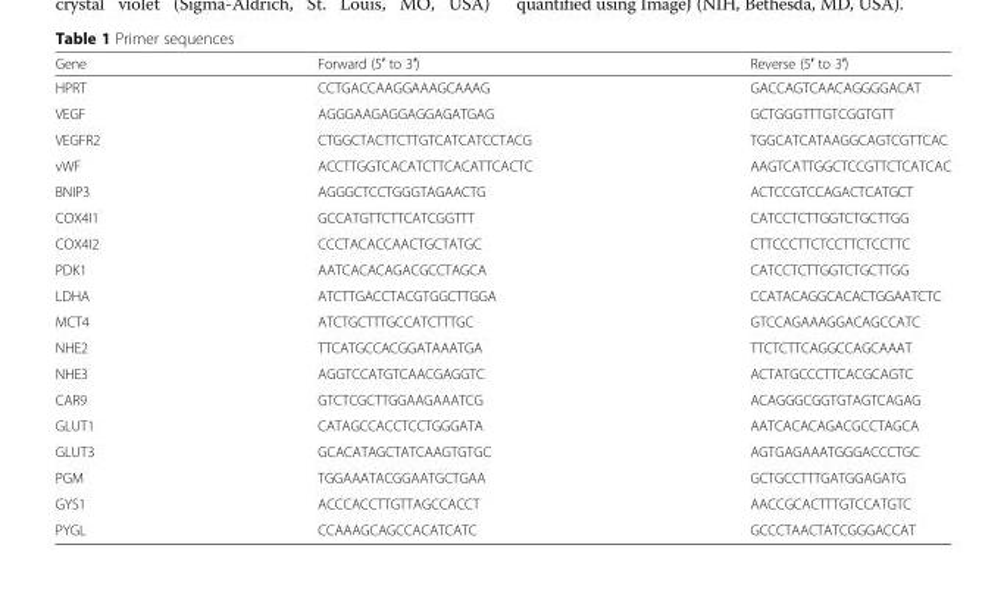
<table><thead><tr><td>Gene</td><td>Forward (5′ to 3′)</td><td>Reverse (5′ to 3′)</td></tr></thead><tbody><tr><td>HPRT</td><td>CCTGACCAAGGAAAGCAAAG</td><td>GACCAGTCAACAGGGGACAT</td></tr><tr><td>VEGF</td><td>AGGGAAGAGGAGGAGATGAG</td><td>GCTGGGTTTGTCGGTGTT</td></tr><tr><td>VEGFR2</td><td>CTGGCTACTTCTTGTCATCATCCTACG</td><td>TGGCATCATAAGGCAGTCGTTCAC</td></tr><tr><td>vWF</td><td>ACCTTGGTCACATCTTCACATTCACTC</td><td>AAGTCATTGGCTCCGTTCTCATCAC</td></tr><tr><td>BNIP3</td><td>AGGGCTCCTGGGTAGAACTG</td><td>ACTCCGTCCAGACTCATGCT</td></tr><tr><td>COX4I1</td><td>GCCATGTTCTTCATCGGTTT</td><td>CATCCTCTTGGTCTGCTTGG</td></tr><tr><td>COX4I2</td><td>CCCTACACCAACTGCTATGC</td><td>CTTCCCTTCTCCTTCTCCTTC</td></tr><tr><td>PDK1</td><td>AATCACACAGACGCCTAGCA</td><td>CATCCTCTTGGTCTGCTTGG</td></tr><tr><td>LDHA</td><td>ATCTTGACCTACGTGGCTTGGA</td><td>CCATACAGGCACACTGGAATCTC</td></tr><tr><td>MCT4</td><td>ATCTGCTTTGCCATCTTTGC</td><td>GTCCAGAAAGGACAGCCATC</td></tr><tr><td>NHE2</td><td>TTCATGCCACGGATAAATGA</td><td>TTCTCTTCAGGCCAGCAAAT</td></tr><tr><td>NHE3</td><td>AGGTCCATGTCAACGAGGTC</td><td>ACTATGCCCTTCACGCAGTC</td></tr><tr><td>CAR9</td><td>GTCTCGCTTGGAAGAAATCG</td><td>ACAGGGCGGTGTAGTCAGAG</td></tr><tr><td>GLUT1</td><td>CATAGCCACCTCCTGGGATA</td><td>AATCACACAGACGCCTAGCA</td></tr><tr><td>GLUT3</td><td>GCACATAGCTATCAAGTGTGC</td><td>AGTGAGAAATGGGACCCTGC</td></tr><tr><td>PGM</td><td>TGGAAATACGGAATGCTGAA</td><td>GCTGCCTTTGATGGAGATG</td></tr><tr><td>GYS1</td><td>ACCCACCTTGTTAGCCACCT</td><td>AACCGCACTTTGTCCATGTC</td></tr><tr><td>PYGL</td><td>CCAAAGCAGCCACATCATC</td><td>GCCCTAACTATCGGGACCAT</td></tr></tbody></table>